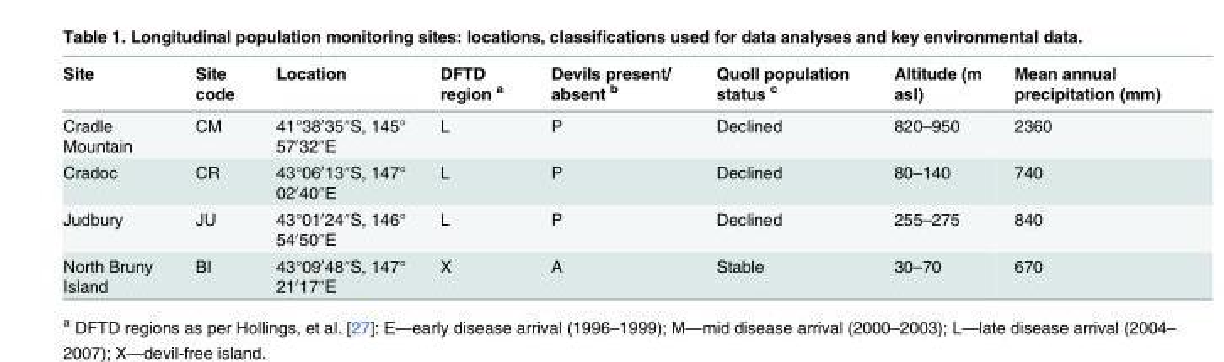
<table><thead><tr><td>Site</td><td>Site code</td><td>Location</td><td>DFTD region <sup>a</sup></td><td>Devils present/ absent <sup>b</sup></td><td>Quoll population status <sup>c</sup></td><td>Altitude (m asl)</td><td>Mean annual precipitation (mm)</td></tr></thead><tbody><tr><td>Cradle Mountain</td><td>CM</td><td>41°38′35″S, 145° 57′32″E</td><td>L</td><td>P</td><td>Declined</td><td>820–950</td><td>2360</td></tr><tr><td>Cradoc</td><td>CR</td><td>43°06′13″S, 147° 02′40″E</td><td>L</td><td>P</td><td>Declined</td><td>80–140</td><td>740</td></tr><tr><td>Judbury</td><td>JU</td><td>43°01′24″S, 146° 54′50″E</td><td>L</td><td>P</td><td>Declined</td><td>255–275</td><td>840</td></tr><tr><td>North Bruny Island</td><td>BI</td><td>43°09′48″S, 147° 21′17″E</td><td>X</td><td>A</td><td>Stable</td><td>30–70</td><td>670</td></tr></tbody></table>